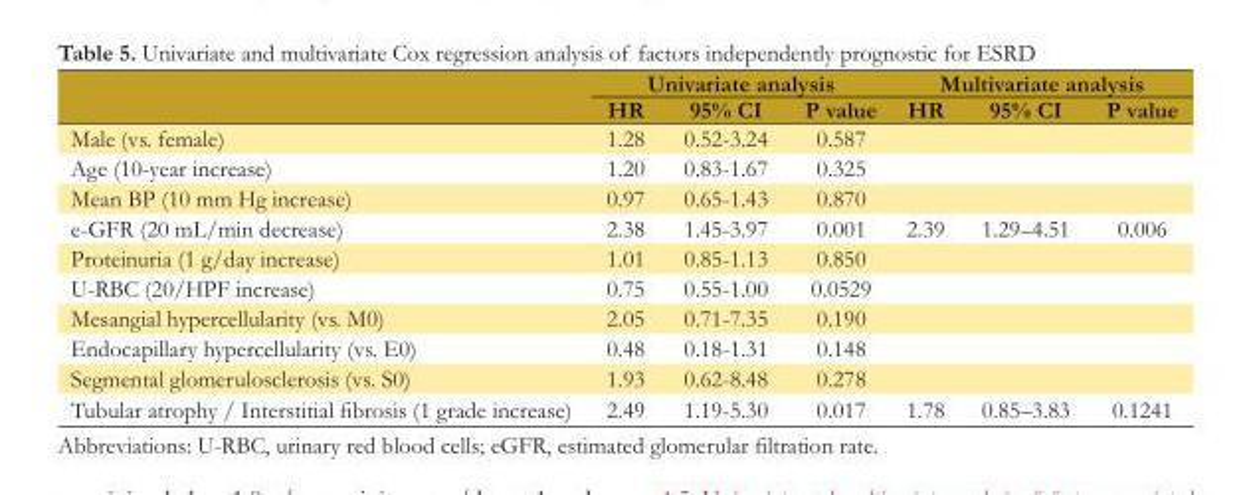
<table><thead><tr><td rowspan="2"></td><td colspan="3">Univariate analysis</td><td colspan="3">Multivariate analysis</td></tr><tr><td>HR</td><td>95% CI</td><td>P value</td><td>HR</td><td>95% CI</td><td>P value</td></tr></thead><tbody><tr><td>Male (vs. female)</td><td>1.28</td><td>0.52-3.24</td><td>0.587</td><td></td><td></td><td></td></tr><tr><td>Age (10-year increase)</td><td>1.20</td><td>0.83-1.67</td><td>0.325</td><td></td><td></td><td></td></tr><tr><td>Mean BP (10 mm Hg increase)</td><td>0.97</td><td>0.65-1.43</td><td>0.870</td><td></td><td></td><td></td></tr><tr><td>e-GFR (20 mL/min decrease)</td><td>2.38</td><td>1.45-3.97</td><td>0.001</td><td>2.39</td><td>1.29–4.51</td><td>0.006</td></tr><tr><td>Proteinuria (1 g/day increase)</td><td>1.01</td><td>0.85-1.13</td><td>0.850</td><td></td><td></td><td></td></tr><tr><td>U-RBC (20/HPF increase)</td><td>0.75</td><td>0.55-1.00</td><td>0.0529</td><td></td><td></td><td></td></tr><tr><td>Mesangial hypercellularity (vs. M0)</td><td>2.05</td><td>0.71-7.35</td><td>0.190</td><td></td><td></td><td></td></tr><tr><td>Endocapillary hypercellularity (vs. E0)</td><td>0.48</td><td>0.18-1.31</td><td>0.148</td><td></td><td></td><td></td></tr><tr><td>Segmental glomerulosclerosis (vs. S0)</td><td>1.93</td><td>0.62-8.48</td><td>0.278</td><td></td><td></td><td></td></tr><tr><td>Tubular atrophy / Interstitial fibrosis (1 grade increase)</td><td>2.49</td><td>1.19-5.30</td><td>0.017</td><td>1.78</td><td>0.85–3.83</td><td>0.1241</td></tr></tbody></table>